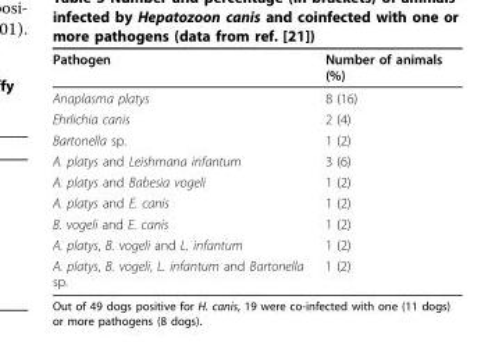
<table><thead><tr><td>Pathogen</td><td>Number of animals (%)</td></tr></thead><tbody><tr><td>Anaplasma platys</td><td>8 (16)</td></tr><tr><td>Ehrlichia canis</td><td>2 (4)</td></tr><tr><td>Bartonella sp.</td><td>1 (2)</td></tr><tr><td>A. platys and Leishmana infantum</td><td>3 (6)</td></tr><tr><td>A. platys and Babesia vogeli</td><td>1 (2)</td></tr><tr><td>A. platys and E. canis</td><td>1 (2)</td></tr><tr><td>B. vogeli and E. canis</td><td>1 (2)</td></tr><tr><td>A. platys, B. vogeli and L. infantum</td><td>1 (2)</td></tr><tr><td>A. platys, B. vogeli, L. infantum and Bartonella sp.</td><td>1 (2)</td></tr></tbody></table>